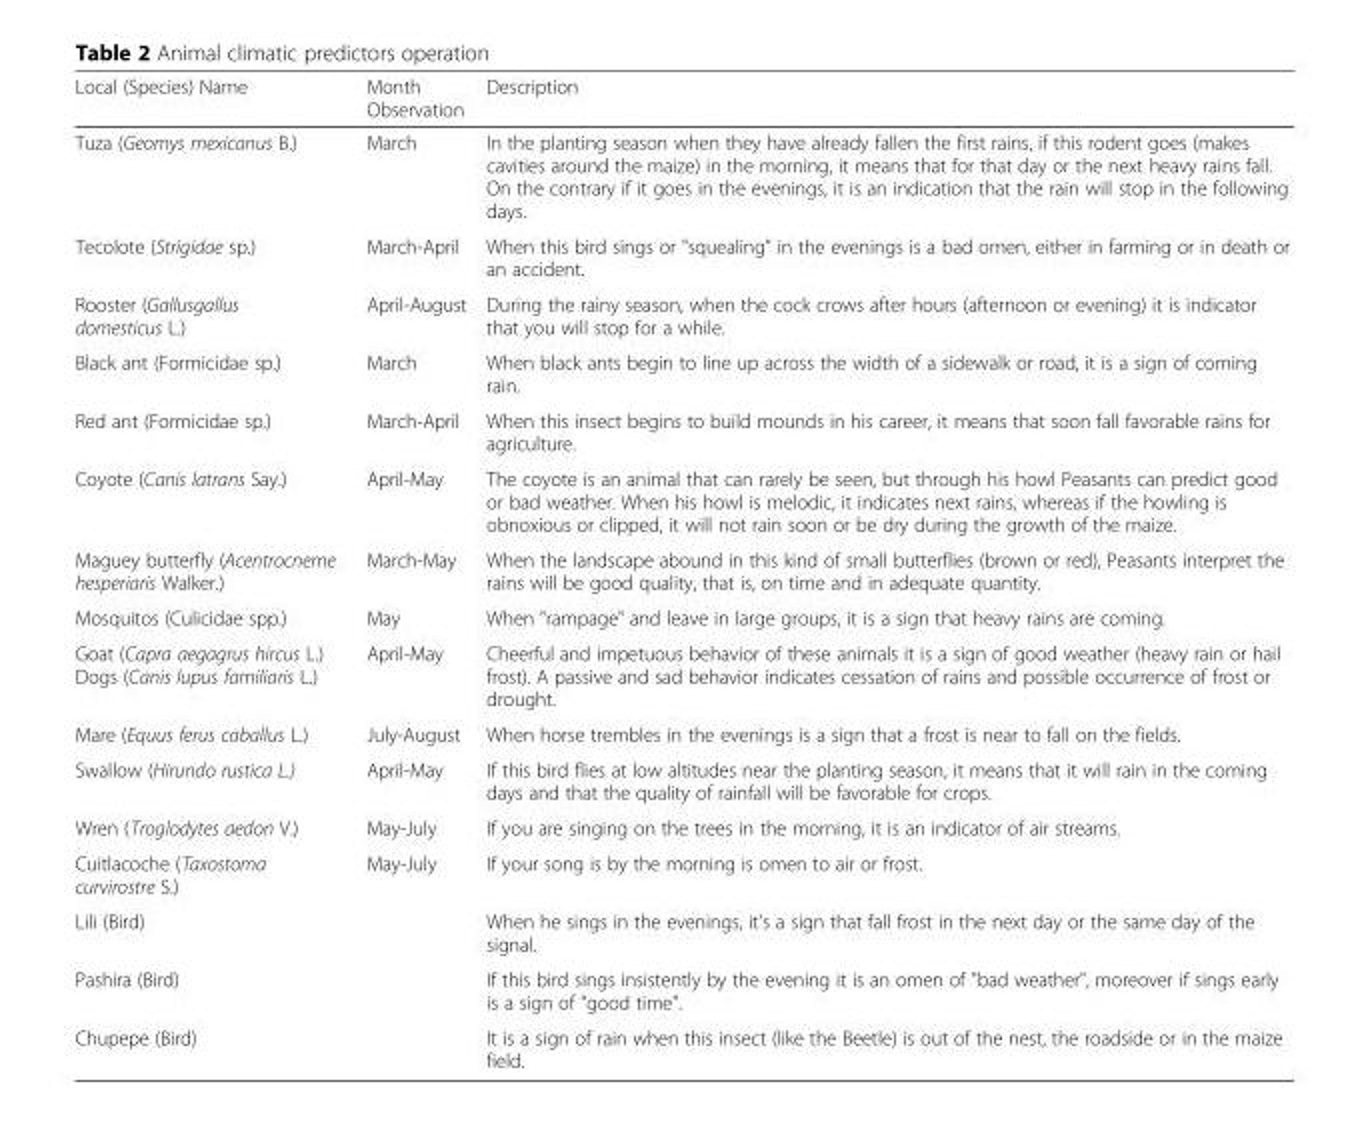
<table><thead><tr><td>Local (Species) Name</td><td>Month Observation</td><td>Description</td></tr></thead><tbody><tr><td>Tuza (Geomys mexicanus B.)</td><td>March</td><td>In the planting season when they have already fallen the first rains, if this rodent goes (makes cavities around the maize) in the morning, it means that for that day or the next heavy rains fall. On the contrary if it goes in the evenings, it is an indication that the rain will stop in the following days.</td></tr><tr><td>Tecolote (Strigidae sp.)</td><td>March-April</td><td>When this bird sings or &quot;squealing&quot; in the evenings is a bad omen, either in farming or in death or an accident.</td></tr><tr><td>Rooster (Gallusgallus domesticus L.)</td><td>April-August</td><td>During the rainy season, when the cock crows after hours (afternoon or evening) it is indicator that you will stop for a while.</td></tr><tr><td>Black ant (Formicidae sp.)</td><td>March</td><td>When black ants begin to line up across the width of a sidewalk or road, it is a sign of coming rain.</td></tr><tr><td>Red ant (Formicidae sp.)</td><td>March-April</td><td>When this insect begins to build mounds in his career, it means that soon fall favorable rains for agriculture.</td></tr><tr><td>Coyote (Canis latrans Say.)</td><td>April-May</td><td>The coyote is an animal that can rarely be seen, but through his howl Peasants can predict good or bad weather. When his howl is melodic, it indicates next rains, whereas if the howling is obnoxious or clipped, it will not rain soon or be dry during the growth of the maize.</td></tr><tr><td>Maguey butterfly (Acentrocneme hesperiaris Walker.)</td><td>March-May</td><td>When the landscape abound in this kind of small butterflies (brown or red), Peasants interpret the rains will be good quality, that is, on time and in adequate quantity.</td></tr><tr><td>Mosquitos (Culicidae spp.)</td><td>May</td><td>When &quot;rampage&quot; and leave in large groups, it is a sign that heavy rains are coming.</td></tr><tr><td>Goat (Capra aegagrus hircus L.) Dogs (Canis lupus familiaris L.)</td><td>April-May</td><td>Cheerful and impetuous behavior of these animals it is a sign of good weather (heavy rain or hail frost). A passive and sad behavior indicates cessation of rains and possible occurrence of frost or drought.</td></tr><tr><td>Mare (Equus ferus caballus L.)</td><td>July-August</td><td>When horse trembles in the evenings is a sign that a frost is near to fall on the fields.</td></tr><tr><td>Swallow (Hirundo rustica L.)</td><td>April-May</td><td>If this bird flies at low altitudes near the planting season, it means that it will rain in the coming days and that the quality of rainfall will be favorable for crops.</td></tr><tr><td>Wren (Troglodytes aedon V.)</td><td>May-July</td><td>If you are singing on the trees in the morning, it is an indicator of air streams.</td></tr><tr><td>Cuitlacoche (Taxostoma curvirostre S.)</td><td>May-July</td><td>If your song is by the morning is omen to air or frost.</td></tr><tr><td>Lili (Bird)</td><td></td><td>When he sings in the evenings, it&#x27;s a sign that fall frost in the next day or the same day of the signal.</td></tr><tr><td>Pashira (Bird)</td><td></td><td>If this bird sings insistently by the evening it is an omen of &quot;bad weather&quot;, moreover if sings early is a sign of &quot;good time&quot;.</td></tr><tr><td>Chupepe (Bird)</td><td></td><td>It is a sign of rain when this insect (like the Beetle) is out of the nest, the roadside or in the maize field.</td></tr></tbody></table>